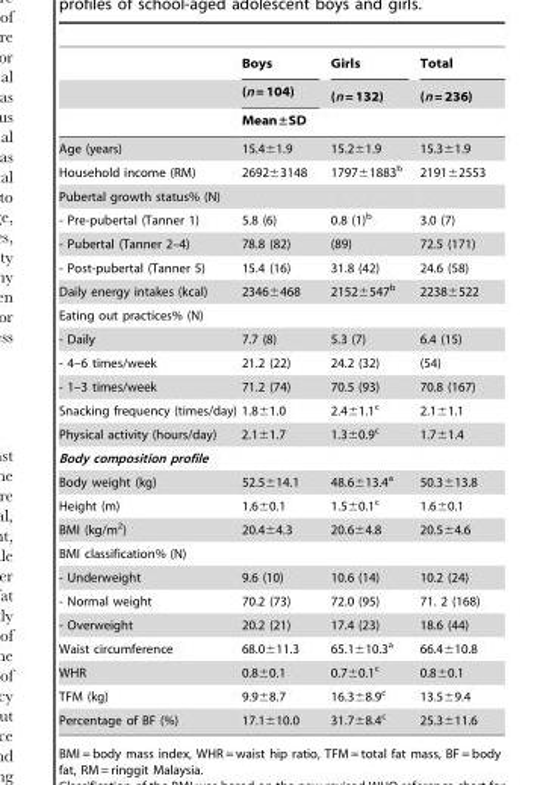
<table><thead><tr><td rowspan="3"></td><td rowspan="2">Boys (n = 104)</td><td rowspan="2">Girls (n = 132)</td><td rowspan="2">Total (n = 236)</td></tr><tr></tr><tr><td colspan="3">Mean±SD</td></tr></thead><tbody><tr><td>Age (years)</td><td>15.4±1.9</td><td>15.2±1.9</td><td>15.3±1.9</td></tr><tr><td>Household income (RM)</td><td>2692±3148</td><td>1797±1883<sup>b</sup></td><td>2191±2553</td></tr><tr><td colspan="4">Pubertal growth status% (N)</td></tr><tr><td>- Pre-pubertal (Tanner 1)</td><td>5.8 (6)</td><td>0.8 (1)<sup>b</sup></td><td>3.0 (7)</td></tr><tr><td>- Pubertal (Tanner 2–4)</td><td>78.8 (82)</td><td>(89)</td><td>72.5 (171)</td></tr><tr><td>- Post-pubertal (Tanner 5)</td><td>15.4 (16)</td><td>31.8 (42)</td><td>24.6 (58)</td></tr><tr><td>Daily energy intakes (kcal)</td><td>2346±468</td><td>2152±547<sup>b</sup></td><td>2238±522</td></tr><tr><td colspan="4">Eating out practices% (N)</td></tr><tr><td>- Daily</td><td>7.7 (8)</td><td>5.3 (7)</td><td>6.4 (15)</td></tr><tr><td>- 4–6 times/week</td><td>21.2 (22)</td><td>24.2 (32)</td><td>(54)</td></tr><tr><td>- 1–3 times/week</td><td>71.2 (74)</td><td>70.5 (93)</td><td>70.8 (167)</td></tr><tr><td>Snacking frequency (times/day)</td><td>1.8±1.0</td><td>2.4±1.1<sup>c</sup></td><td>2.1±1.1</td></tr><tr><td>Physical activity (hours/day)</td><td>2.1±1.7</td><td>1.3±0.9<sup>c</sup></td><td>1.7±1.4</td></tr><tr><td colspan="4">Body composition profile</td></tr><tr><td>Body weight (kg)</td><td>52.5±14.1</td><td>48.6±13.4<sup>a</sup></td><td>50.3±13.8</td></tr><tr><td>Height (m)</td><td>1.6±0.1</td><td>1.5±0.1<sup>c</sup></td><td>1.6±0.1</td></tr><tr><td>BMI (kg/m<sup>2</sup>)</td><td>20.4±4.3</td><td>20.6±4.8</td><td>20.5±4.6</td></tr><tr><td colspan="4">BMI classification% (N)</td></tr><tr><td>- Underweight</td><td>9.6 (10)</td><td>10.6 (14)</td><td>10.2 (24)</td></tr><tr><td>- Normal weight</td><td>70.2 (73)</td><td>72.0 (95)</td><td>71. 2 (168)</td></tr><tr><td>- Overweight</td><td>20.2 (21)</td><td>17.4 (23)</td><td>18.6 (44)</td></tr><tr><td>Waist circumference</td><td>68.0±11.3</td><td>65.1±10.3<sup>a</sup></td><td>66.4±10.8</td></tr><tr><td>WHR</td><td>0.8±0.1</td><td>0.7±0.1<sup>c</sup></td><td>0.8±0.1</td></tr><tr><td>TFM (kg)</td><td>9.9±8.7</td><td>16.3±8.9<sup>c</sup></td><td>13.5±9.4</td></tr><tr><td>Percentage of BF (%)</td><td>17.1±10.0</td><td>31.7±8.4<sup>c</sup></td><td>25.3±11.6</td></tr></tbody></table>